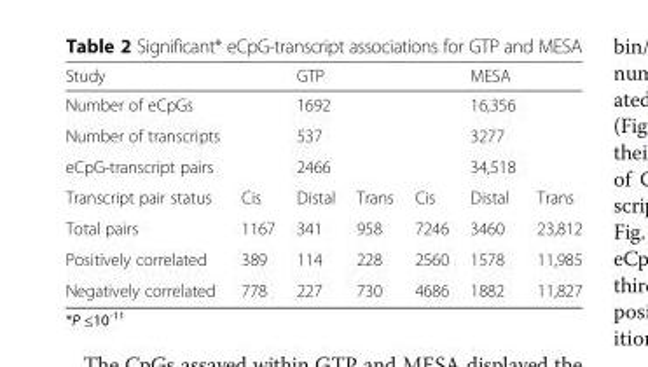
<table><thead><tr><td>Study</td><td></td><td>GTP</td><td></td><td></td><td>MESA</td><td></td></tr></thead><tbody><tr><td>Number of eCpGs</td><td></td><td>1692</td><td></td><td></td><td>16,356</td><td></td></tr><tr><td>Number of transcripts</td><td></td><td>537</td><td></td><td></td><td>3277</td><td></td></tr><tr><td>eCpG-transcript pairs</td><td></td><td>2466</td><td></td><td></td><td>34,518</td><td></td></tr><tr><td>Transcript pair status</td><td>Cis</td><td>Distal</td><td>Trans</td><td>Cis</td><td>Distal</td><td>Trans</td></tr><tr><td>Total pairs</td><td>1167</td><td>341</td><td>958</td><td>7246</td><td>3460</td><td>23,812</td></tr><tr><td>Positively correlated</td><td>389</td><td>114</td><td>228</td><td>2560</td><td>1578</td><td>11,985</td></tr><tr><td>Negatively correlated</td><td>778</td><td>227</td><td>730</td><td>4686</td><td>1882</td><td>11,827</td></tr></tbody></table>